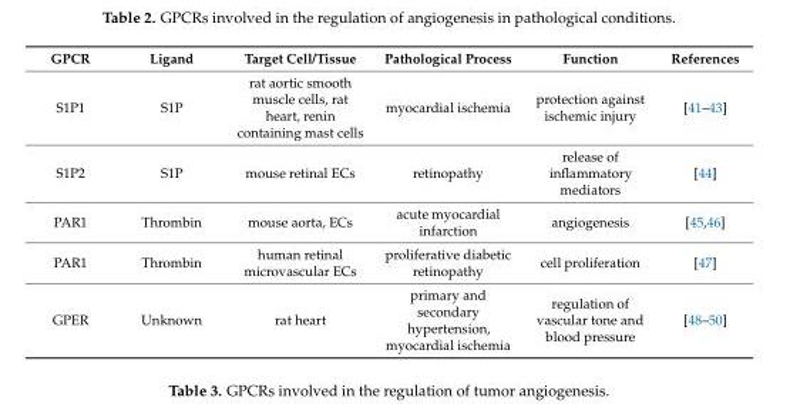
<table><thead><tr><td>GPCR</td><td>Ligand</td><td>Target Cell/Tissue</td><td>Pathological Process</td><td>Function</td><td>References</td></tr></thead><tbody><tr><td>S1P1</td><td>S1P</td><td>rat aortic smooth muscle cells, rat heart, renin containing mast cells</td><td>myocardial ischemia</td><td>protection against ischemic injury</td><td>[41–43]</td></tr><tr><td>S1P2</td><td>S1P</td><td>mouse retinal ECs</td><td>retinopathy</td><td>release of inflammatory mediators</td><td>[44]</td></tr><tr><td>PAR1</td><td>Thrombin</td><td>mouse aorta, ECs</td><td>acute myocardial infarction</td><td>angiogenesis</td><td>[45,46]</td></tr><tr><td>PAR1</td><td>Thrombin</td><td>human retinal microvascular ECs</td><td>proliferative diabetic retinopathy</td><td>cell proliferation</td><td>[47]</td></tr><tr><td>GPER</td><td>Unknown</td><td>rat heart</td><td>primary and secondary hypertension, myocardial ischemia</td><td>regulation of vascular tone and blood pressure</td><td>[48–50]</td></tr></tbody></table>